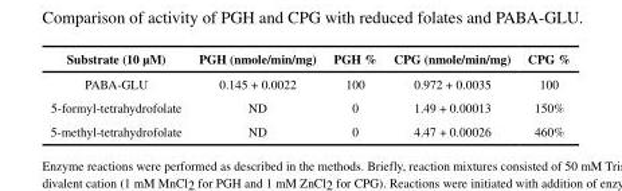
<table><thead><tr><td>Substrate (10 µM)</td><td>PGH (nmole/min/mg)</td><td>PGH %</td><td>CPG (nmole/min/mg)</td><td>CPG %</td></tr></thead><tbody><tr><td>PABA-GLU</td><td>0.145 + 0.0022</td><td>100</td><td>0.972 + 0.0035</td><td>100</td></tr><tr><td>5-formyl-tetrahydrofolate</td><td>ND</td><td>0</td><td>1.49 + 0.00013</td><td>150%</td></tr><tr><td>5-methyl-tetrahydrofolate</td><td>ND</td><td>0</td><td>4.47 + 0.00026</td><td>460%</td></tr></tbody></table>